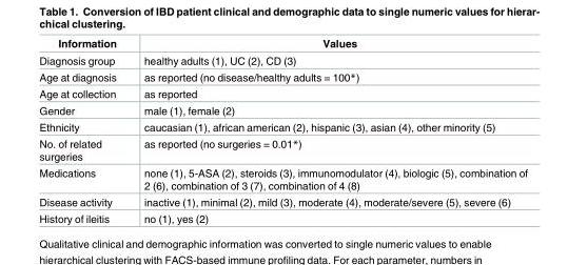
<table><thead><tr><td>Information</td><td>Values</td></tr></thead><tbody><tr><td>Diagnosis group</td><td>healthy adults (1), UC (2), CD (3)</td></tr><tr><td>Age at diagnosis</td><td>as reported (no disease/healthy adults = 100*)</td></tr><tr><td>Age at collection</td><td>as reported</td></tr><tr><td>Gender</td><td>male (1), female (2)</td></tr><tr><td>Ethnicity</td><td>caucasian (1), african american (2), hispanic (3), asian (4), other minority (5)</td></tr><tr><td>No. of related surgeries</td><td>as reported (no surgeries = 0.01*)</td></tr><tr><td>Medications</td><td>none (1), 5-ASA (2), steroids (3), immunomodulator (4), biologic (5), combination of 2 (6), combination of 3 (7), combination of 4 (8)</td></tr><tr><td>Disease activity</td><td>inactive (1), minimal (2), mild (3), moderate (4), moderate/severe (5), severe (6)</td></tr><tr><td>History of ileitis</td><td>no (1), yes (2)</td></tr></tbody></table>